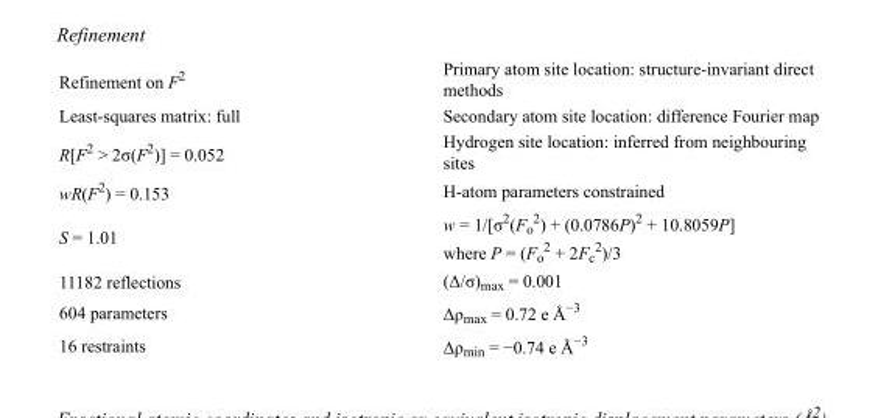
<table><tbody><tr><td>Refinement on F<sup>2</sup></td><td>Primary atom site location: structure-invariant direct methods</td></tr><tr><td>Least-squares matrix: full</td><td>Secondary atom site location: difference Fourier map</td></tr><tr><td>R[F<sup>2</sup> &gt; 2σ(F<sup>2</sup>)] = 0.052</td><td>Hydrogen site location: inferred from neighbouring sites</td></tr><tr><td>wR(F<sup>2</sup>) = 0.153</td><td>H-atom parameters constrained</td></tr><tr><td>S = 1.01</td><td>w = 1/[σ<sup>2</sup>(F<sub>o</sub> <sup>2</sup>) + (0.0786P)<sup>2</sup> + 10.8059P] where P = (F<sub>o</sub> <sup>2</sup> + 2F<sub>c</sub> <sup>2</sup>)/3</td></tr><tr><td>11182 reflections</td><td>(Δ/σ)<sub>max</sub> = 0.001</td></tr><tr><td>604 parameters</td><td>Δρ<sub>max</sub> = 0.72 e Å<sup>−3</sup></td></tr><tr><td>16 restraints</td><td>Δρ<sub>min</sub> = −0.74 e Å<sup>−3</sup></td></tr></tbody></table>